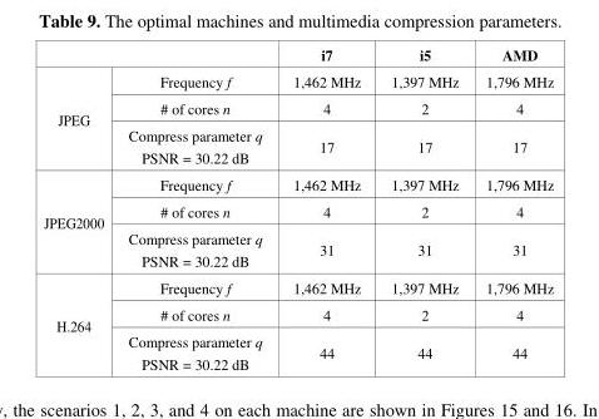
<table><thead><tr><td></td><td></td><td>i7</td><td>i5</td><td>AMD</td></tr></thead><tbody><tr><td rowspan="3">JPEG</td><td>Frequency f</td><td>1,462 MHz</td><td>1,397 MHz</td><td>1,796 MHz</td></tr><tr><td># of cores n</td><td>4</td><td>2</td><td>4</td></tr><tr><td>Compress parameter q PSNR = 30.22 dB</td><td>17</td><td>17</td><td>17</td></tr><tr><td rowspan="3">JPEG2000</td><td>Frequency f</td><td>1,462 MHz</td><td>1,397 MHz</td><td>1,796 MHz</td></tr><tr><td># of cores n</td><td>4</td><td>2</td><td>4</td></tr><tr><td>Compress parameter q PSNR = 30.22 dB</td><td>31</td><td>31</td><td>31</td></tr><tr><td rowspan="3">H.264</td><td>Frequency f</td><td>1,462 MHz</td><td>1,397 MHz</td><td>1,796 MHz</td></tr><tr><td># of cores n</td><td>4</td><td>2</td><td>4</td></tr><tr><td>Compress parameter q PSNR = 30.22 dB</td><td>44</td><td>44</td><td>44</td></tr></tbody></table>